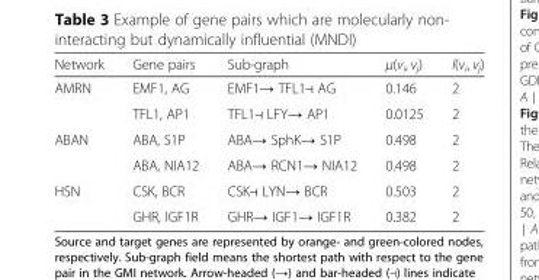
<table><thead><tr><td>Network</td><td>Gene pairs</td><td>Sub-graph</td><td>μ(v<sub>i</sub>, v<sub>j</sub>)</td><td>l(v<sub>i</sub>, v<sub>j</sub>)</td></tr></thead><tbody><tr><td rowspan="2">AMRN</td><td>EMF1, AG</td><td>EMF1→ TFL1⊣ AG</td><td>0.146</td><td>2</td></tr><tr><td>TFL1, AP1</td><td>TFL1⊣ LFY→ AP1</td><td>0.0125</td><td>2</td></tr><tr><td rowspan="2">ABAN</td><td>ABA, S1P</td><td>ABA→ SphK→ S1P</td><td>0.498</td><td>2</td></tr><tr><td>ABA, NIA12</td><td>ABA→ RCN1→ NIA12</td><td>0.498</td><td>2</td></tr><tr><td rowspan="2">HSN</td><td>CSK, BCR</td><td>CSK⊣ LYN→ BCR</td><td>0.503</td><td>2</td></tr><tr><td>GHR, IGF1R</td><td>GHR→ IGF1→ IGF1R</td><td>0.382</td><td>2</td></tr></tbody></table>